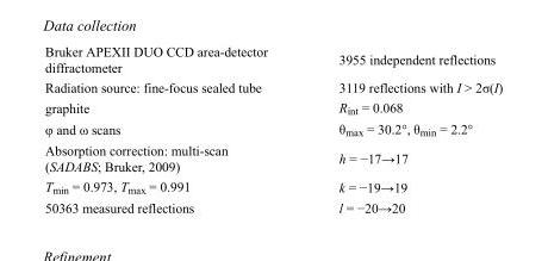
<table><tbody><tr><td>Bruker APEXII DUO CCD area-detector diffractometer</td><td>3955 independent reflections</td></tr><tr><td>Radiation source: fine-focus sealed tube</td><td>3119 reflections with I &gt; 2σ(I)</td></tr><tr><td>graphite</td><td>R<sub>int</sub> = 0.068</td></tr><tr><td>φ and ω scans</td><td>θ<sub>max</sub> = 30.2°, θ<sub>min</sub> = 2.2°</td></tr><tr><td>Absorption correction: multi-scan (SADABS; Bruker, 2009)</td><td>h = −17→17</td></tr><tr><td>T<sub>min</sub> = 0.973, T<sub>max</sub> = 0.991</td><td>k = −19→19</td></tr><tr><td>50363 measured reflections</td><td>l = −20→20</td></tr></tbody></table>